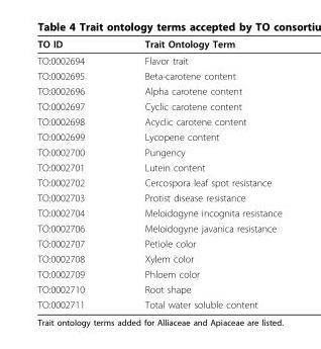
<table><thead><tr><td>TO ID</td><td>Trait Ontology Term</td></tr></thead><tbody><tr><td>TO:0002694</td><td>Flavor trait</td></tr><tr><td>TO:0002695</td><td>Beta-carotene content</td></tr><tr><td>TO:0002696</td><td>Alpha carotene content</td></tr><tr><td>TO:0002697</td><td>Cyclic carotene content</td></tr><tr><td>TO:0002698</td><td>Acyclic carotene content</td></tr><tr><td>TO:0002699</td><td>Lycopene content</td></tr><tr><td>TO:0002700</td><td>Pungency</td></tr><tr><td>TO:0002701</td><td>Lutein content</td></tr><tr><td>TO:0002702</td><td>Cercospora leaf spot resistance</td></tr><tr><td>TO:0002703</td><td>Protist disease resistance</td></tr><tr><td>TO:0002704</td><td>Meloidogyne incognita resistance</td></tr><tr><td>TO:0002706</td><td>Meloidogyne javanica resistance</td></tr><tr><td>TO:0002707</td><td>Petiole color</td></tr><tr><td>TO:0002708</td><td>Xylem color</td></tr><tr><td>TO:0002709</td><td>Phloem color</td></tr><tr><td>TO:0002710</td><td>Root shape</td></tr><tr><td>TO:0002711</td><td>Total water soluble content</td></tr></tbody></table>